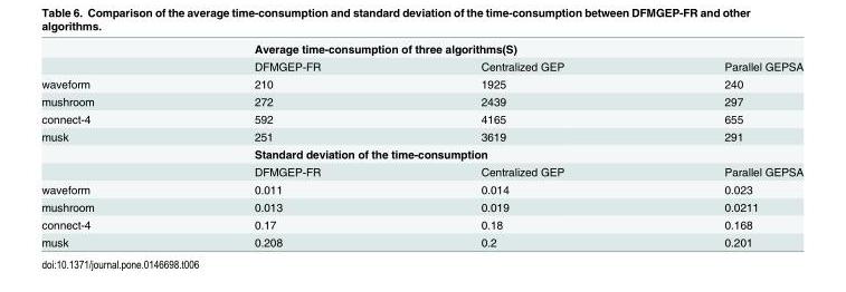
<table><thead><tr><td rowspan="2"></td><td colspan="3">Average time-consumption of three algorithms(S)</td></tr><tr><td>DFMGEP-FR</td><td>Centralized GEP</td><td>Parallel GEPSA</td></tr></thead><tbody><tr><td>waveform</td><td>210</td><td>1925</td><td>240</td></tr><tr><td>mushroom</td><td>272</td><td>2439</td><td>297</td></tr><tr><td>connect-4</td><td>592</td><td>4165</td><td>655</td></tr><tr><td rowspan="3">musk</td><td>251</td><td>3619</td><td>291</td></tr><tr><td colspan="3">Standard deviation of the time-consumption</td></tr><tr><td>DFMGEP-FR</td><td>Centralized GEP</td><td>Parallel GEPSA</td></tr><tr><td>waveform</td><td>0.011</td><td>0.014</td><td>0.023</td></tr><tr><td>mushroom</td><td>0.013</td><td>0.019</td><td>0.0211</td></tr><tr><td>connect-4</td><td>0.17</td><td>0.18</td><td>0.168</td></tr><tr><td>musk</td><td>0.208</td><td>0.2</td><td>0.201</td></tr></tbody></table>